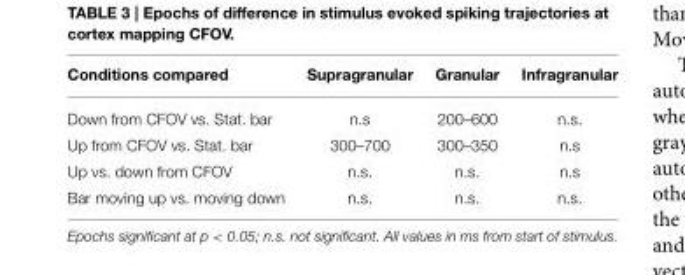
<table><thead><tr><td>Conditions compared</td><td>Supragranular</td><td>Granular</td><td>Infragranular</td></tr></thead><tbody><tr><td>Down from CFOV vs. Stat. bar</td><td>n.s</td><td>200–600</td><td>n.s.</td></tr><tr><td>Up from CFOV vs. Stat. bar</td><td>300–700</td><td>300–350</td><td>n.s</td></tr><tr><td>Up vs. down from CFOV</td><td>n.s.</td><td>n.s.</td><td>n.s</td></tr><tr><td>Bar moving up vs. moving down</td><td>n.s.</td><td>n.s.</td><td>n.s.</td></tr></tbody></table>